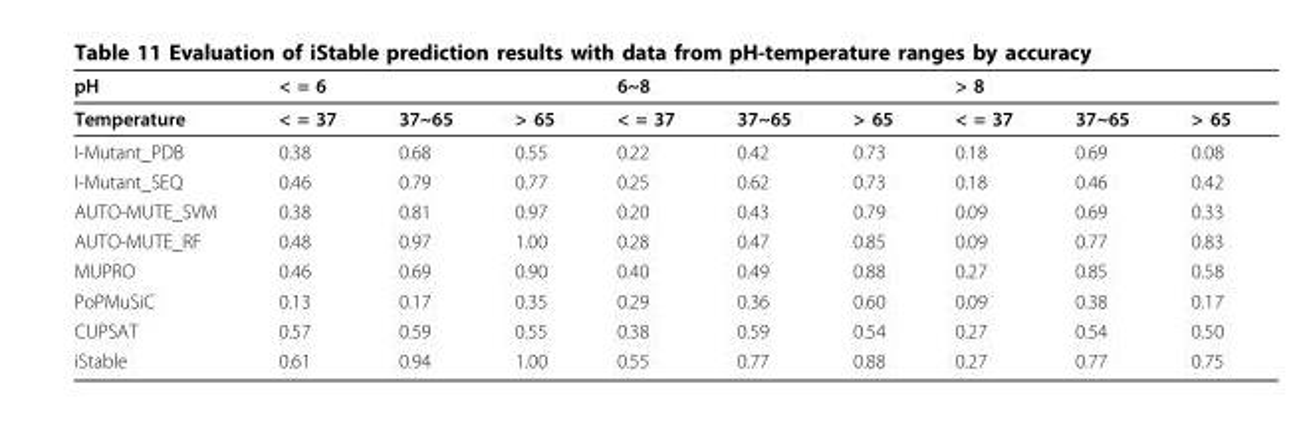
<table><thead><tr><td rowspan="2">pH Temperature</td><td colspan="3">&lt; = 6</td><td colspan="3">6~8</td><td colspan="3">&gt; 8</td></tr><tr><td>&lt; = 37</td><td>37~65</td><td>&gt; 65</td><td>&lt; = 37</td><td>37~65</td><td>&gt; 65</td><td>&lt; = 37</td><td>37~65</td><td>&gt; 65</td></tr></thead><tbody><tr><td>I-Mutant_PDB</td><td>0.38</td><td>0.68</td><td>0.55</td><td>0.22</td><td>0.42</td><td>0.73</td><td>0.18</td><td>0.69</td><td>0.08</td></tr><tr><td>I-Mutant_SEQ</td><td>0.46</td><td>0.79</td><td>0.77</td><td>0.25</td><td>0.62</td><td>0.73</td><td>0.18</td><td>0.46</td><td>0.42</td></tr><tr><td>AUTO-MUTE_SVM</td><td>0.38</td><td>0.81</td><td>0.97</td><td>0.20</td><td>0.43</td><td>0.79</td><td>0.09</td><td>0.69</td><td>0.33</td></tr><tr><td>AUTO-MUTE_RF</td><td>0.48</td><td>0.97</td><td>1.00</td><td>0.28</td><td>0.47</td><td>0.85</td><td>0.09</td><td>0.77</td><td>0.83</td></tr><tr><td>MUPRO</td><td>0.46</td><td>0.69</td><td>0.90</td><td>0.40</td><td>0.49</td><td>0.88</td><td>0.27</td><td>0.85</td><td>0.58</td></tr><tr><td>PoPMuSiC</td><td>0.13</td><td>0.17</td><td>0.35</td><td>0.29</td><td>0.36</td><td>0.60</td><td>0.09</td><td>0.38</td><td>0.17</td></tr><tr><td>CUPSAT</td><td>0.57</td><td>0.59</td><td>0.55</td><td>0.38</td><td>0.59</td><td>0.54</td><td>0.27</td><td>0.54</td><td>0.50</td></tr><tr><td>iStable</td><td>0.61</td><td>0.94</td><td>1.00</td><td>0.55</td><td>0.77</td><td>0.88</td><td>0.27</td><td>0.77</td><td>0.75</td></tr></tbody></table>